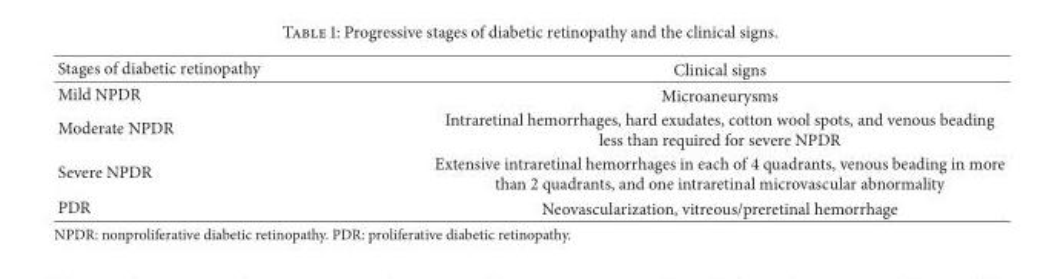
<table><thead><tr><td>Stages of diabetic retinopathy</td><td>Clinical signs</td></tr></thead><tbody><tr><td>Mild NPDR</td><td>Microaneurysms</td></tr><tr><td>Moderate NPDR</td><td>Intraretinal hemorrhages, hard exudates, cotton wool spots, and venous beading less than required for severe NPDR</td></tr><tr><td>Severe NPDR</td><td>Extensive intraretinal hemorrhages in each of 4 quadrants, venous beading in more than 2 quadrants, and one intraretinal microvascular abnormality</td></tr><tr><td>PDR</td><td>Neovascularization, vitreous/preretinal hemorrhage</td></tr></tbody></table>